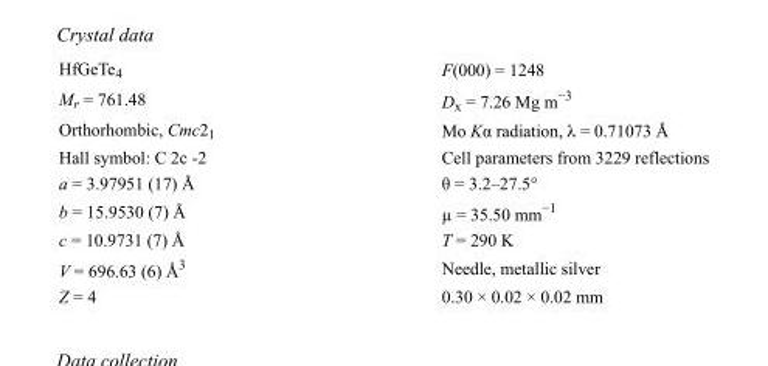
<table><tbody><tr><td>HfGeTe<sub>4</sub></td><td>F(000) = 1248</td></tr><tr><td>M<sub>r</sub> = 761.48</td><td>D<sub>x</sub> = 7.26 Mg m<sup>−3</sup></td></tr><tr><td>Orthorhombic, Cmc2<sub>1</sub></td><td>Mo Kα radiation, λ = 0.71073 Å</td></tr><tr><td>Hall symbol: C 2c -2</td><td>Cell parameters from 3229 reflections</td></tr><tr><td>a = 3.97951 (17) Å</td><td>θ = 3.2–27.5°</td></tr><tr><td>b = 15.9530 (7) Å</td><td>µ = 35.50 mm<sup>−1</sup></td></tr><tr><td>c = 10.9731 (7) Å</td><td>T = 290 K</td></tr><tr><td>V = 696.63 (6) Å<sup>3</sup></td><td>Needle, metallic silver</td></tr><tr><td>Z = 4</td><td>0.30 × 0.02 × 0.02 mm</td></tr></tbody></table>